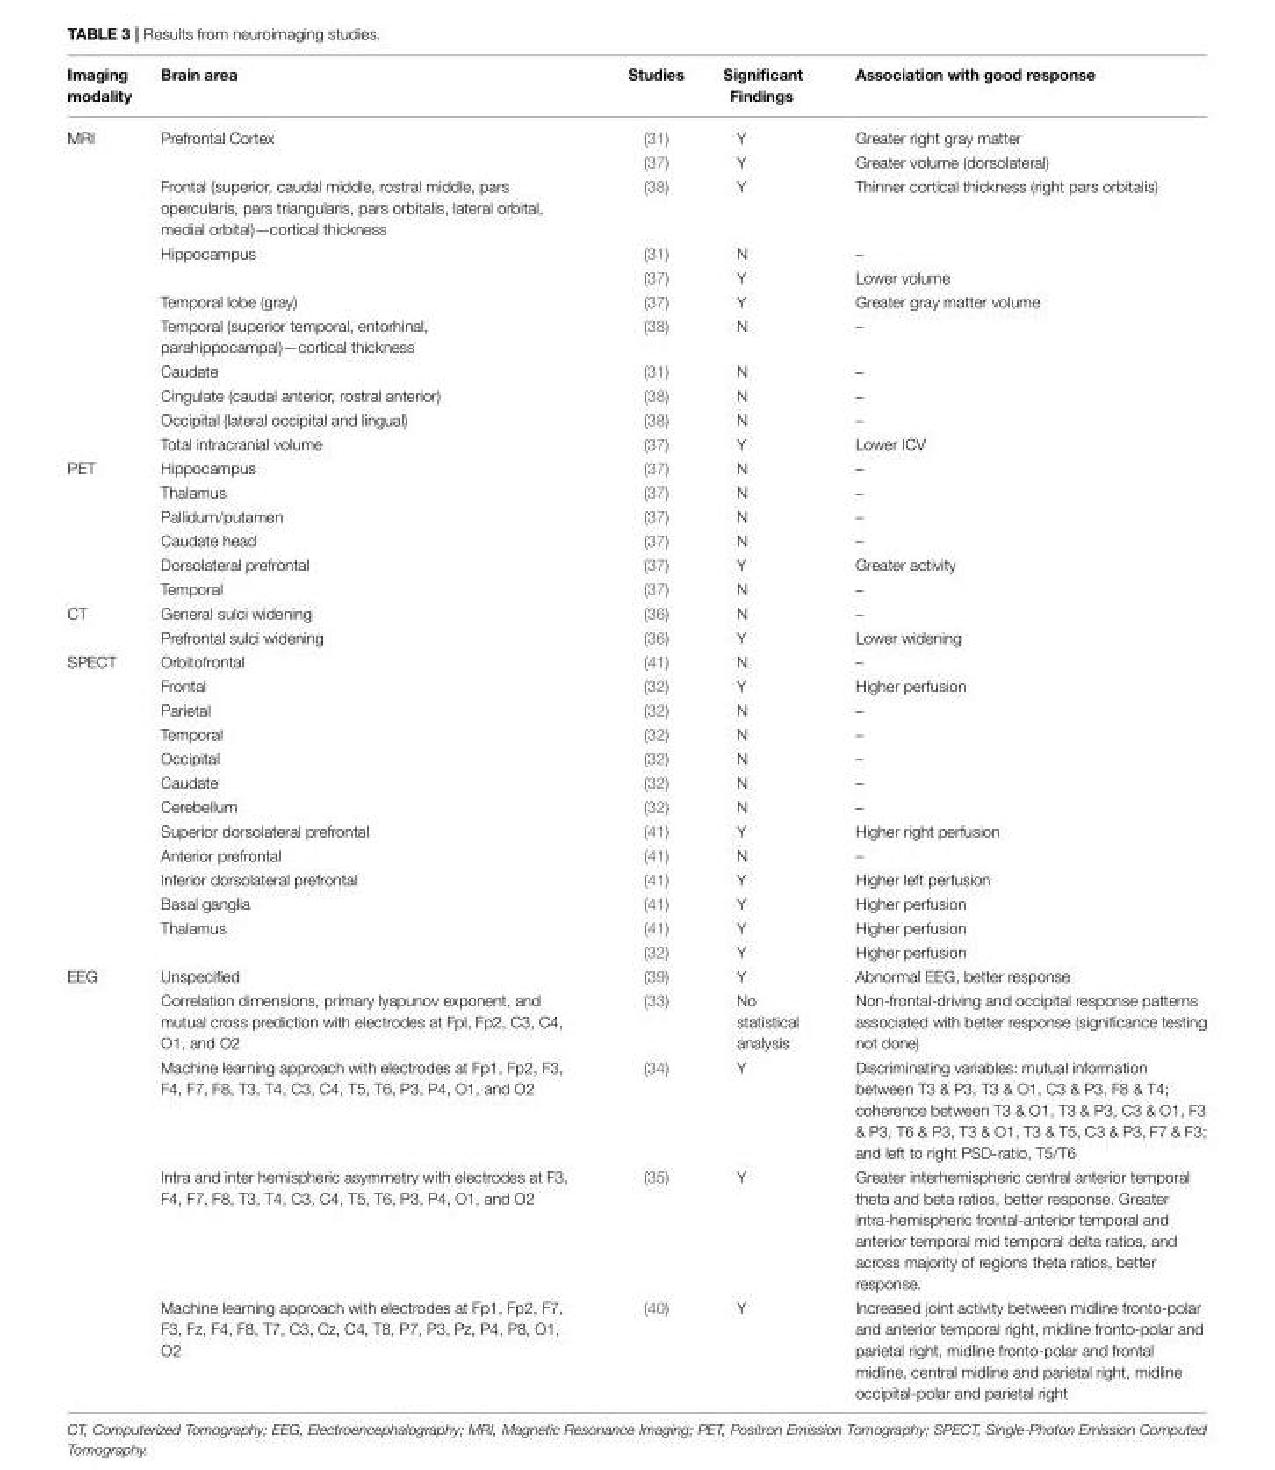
<table><thead><tr><td>Imaging modality</td><td>Brain area</td><td>Studies</td><td>Significant Findings</td><td>Association with good response</td></tr></thead><tbody><tr><td rowspan="11">MRI</td><td>Prefrontal Cortex</td><td>(31)</td><td>Y</td><td>Greater right gray matter</td></tr><tr><td></td><td>(37)</td><td>Y</td><td>Greater volume (dorsolateral)</td></tr><tr><td>Frontal (superior, caudal middle, rostral middle, pars opercularis, pars triangularis, pars orbitalis, lateral orbital, medial orbital)—cortical thickness</td><td>(38)</td><td>Y</td><td>Thinner cortical thickness (right pars orbitalis)</td></tr><tr><td>Hippocampus</td><td>(31)</td><td>N</td><td>–</td></tr><tr><td></td><td>(37)</td><td>Y</td><td>Lower volume</td></tr><tr><td>Temporal lobe (gray)</td><td>(37)</td><td>Y</td><td>Greater gray matter volume</td></tr><tr><td>Temporal (superior temporal, entorhinal, parahippocampal)—cortical thickness</td><td>(38)</td><td>N</td><td>–</td></tr><tr><td>Caudate</td><td>(31)</td><td>N</td><td>–</td></tr><tr><td>Cingulate (caudal anterior, rostral anterior)</td><td>(38)</td><td>N</td><td>–</td></tr><tr><td>Occipital (lateral occipital and lingual)</td><td>(38)</td><td>N</td><td>–</td></tr><tr><td>Total intracranial volume</td><td>(37)</td><td>Y</td><td>Lower ICV</td></tr><tr><td rowspan="6">PET</td><td>Hippocampus</td><td>(37)</td><td>N</td><td>–</td></tr><tr><td>Thalamus</td><td>(37)</td><td>N</td><td>–</td></tr><tr><td>Pallidum/putamen</td><td>(37)</td><td>N</td><td>–</td></tr><tr><td>Caudate head</td><td>(37)</td><td>N</td><td>–</td></tr><tr><td>Dorsolateral prefrontal</td><td>(37)</td><td>Y</td><td>Greater activity</td></tr><tr><td>Temporal</td><td>(37)</td><td>N</td><td>–</td></tr><tr><td rowspan="2">CT</td><td>General sulci widening</td><td>(36)</td><td>N</td><td>–</td></tr><tr><td>Prefrontal sulci widening</td><td>(36)</td><td>Y</td><td>Lower widening</td></tr><tr><td rowspan="13">SPECT</td><td>Orbitofrontal</td><td>(41)</td><td>N</td><td>–</td></tr><tr><td>Frontal</td><td>(32)</td><td>Y</td><td>Higher perfusion</td></tr><tr><td>Parietal</td><td>(32)</td><td>N</td><td>–</td></tr><tr><td>Temporal</td><td>(32)</td><td>N</td><td>–</td></tr><tr><td>Occipital</td><td>(32)</td><td>N</td><td>–</td></tr><tr><td>Caudate</td><td>(32)</td><td>N</td><td>–</td></tr><tr><td>Cerebellum</td><td>(32)</td><td>N</td><td>–</td></tr><tr><td>Superior dorsolateral prefrontal</td><td>(41)</td><td>Y</td><td>Higher right perfusion</td></tr><tr><td>Anterior prefrontal</td><td>(41)</td><td>N</td><td>–</td></tr><tr><td>Inferior dorsolateral prefrontal</td><td>(41)</td><td>Y</td><td>Higher left perfusion</td></tr><tr><td>Basal ganglia</td><td>(41)</td><td>Y</td><td>Higher perfusion</td></tr><tr><td>Thalamus</td><td>(41)</td><td>Y</td><td>Higher perfusion</td></tr><tr><td></td><td>(32)</td><td>Y</td><td>Higher perfusion</td></tr><tr><td rowspan="5">EEG</td><td>Unspecified</td><td>(39)</td><td>Y</td><td>Abnormal EEG, better response</td></tr><tr><td>Correlation dimensions, primary lyapunov exponent, and mutual cross prediction with electrodes at Fpl, Fp2, C3, C4, O1, and O2</td><td>(33)</td><td>No statistical analysis</td><td>Non-frontal-driving and occipital response patterns associated with better response (significance testing not done)</td></tr><tr><td>Machine learning approach with electrodes at Fp1, Fp2, F3, F4, F7, F8, T3, T4, C3, C4, T5, T6, P3, P4, O1, and O2</td><td>(34)</td><td>Y</td><td>Discriminating variables: mutual information between T3 &amp; P3, T3 &amp; O1, C3 &amp; P3, F8 &amp; T4; coherence between T3 &amp; O1, T3 &amp; P3, C3 &amp; O1, F3 &amp; P3, T6 &amp; P3, T3 &amp; O1, T3 &amp; T5, C3 &amp; P3, F7 &amp; F3; and left to right PSD-ratio, T5/T6</td></tr><tr><td>Intra and inter hemispheric asymmetry with electrodes at F3, F4, F7, F8, T3, T4, C3, C4, T5, T6, P3, P4, O1, and O2</td><td>(35)</td><td>Y</td><td>Greater interhemispheric central anterior temporal theta and beta ratios, better response. Greater intra-hemispheric frontal-anterior temporal and anterior temporal mid temporal delta ratios, and across majority of regions theta ratios, better response.</td></tr><tr><td>Machine learning approach with electrodes at Fp1, Fp2, F7, F3, Fz, F4, F8, T7, C3, Cz, C4, T8, P7, P3, Pz, P4, P8, O1, O2</td><td>(40)</td><td>Y</td><td>Increased joint activity between midline fronto-polar and anterior temporal right, midline fronto-polar and parietal right, midline fronto-polar and frontal midline, central midline and parietal right, midline occipital-polar and parietal right</td></tr></tbody></table>